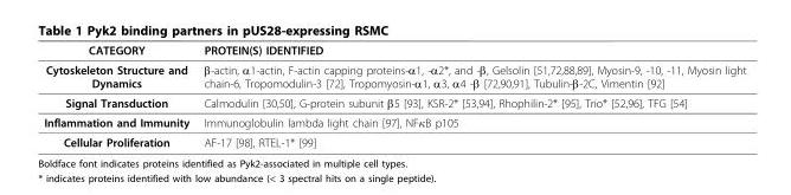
<table><thead><tr><td>CATEGORY</td><td>PROTEIN(S) IDENTIFIED</td></tr></thead><tbody><tr><td>Cytoskeleton Structure and Dynamics</td><td>β-actin, α1-actin, F-actin capping proteins-α1, -α2*, and -β, Gelsolin [51,72,88,89], Myosin-9, -10, -11, Myosin light chain-6, Tropomodulin-3 [72], Tropomyosin-α1, α3, α4 -β [72,90,91], Tubulin-β-2C, Vimentin [92]</td></tr><tr><td>Signal Transduction</td><td>Calmodulin [30,50], G-protein subunit β5 [93], KSR-2* [53,94], Rhophilin-2* [95], Trio* [52,96], TFG [54]</td></tr><tr><td>Inflammation and Immunity</td><td>Immunoglobulin lambda light chain [97], NFκB p105</td></tr><tr><td>Cellular Proliferation</td><td>AF-17 [98], RTEL-1* [99]</td></tr></tbody></table>